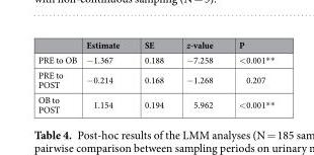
<table><thead><tr><td></td><td>Estimate</td><td>SE</td><td>z-value</td><td>P</td></tr></thead><tbody><tr><td>PRE to OB</td><td>−1.367</td><td>0.188</td><td>−7.258</td><td>&lt;0.001**</td></tr><tr><td>PRE to POST</td><td>−0.214</td><td>0.168</td><td>−1.268</td><td>0.207</td></tr><tr><td>OB to POST</td><td>1.154</td><td>0.194</td><td>5.962</td><td>&lt;0.001**</td></tr></tbody></table>